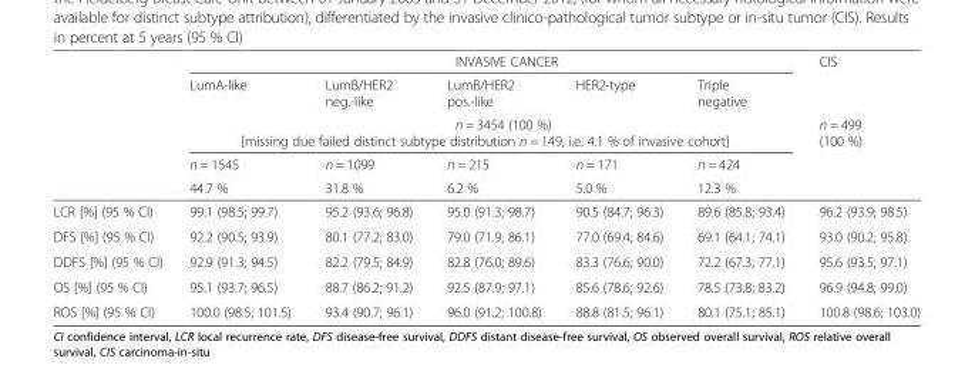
<table><thead><tr><td rowspan="5"></td><td colspan="5">INVASIVE CANCER</td><td rowspan="5">CIS n = 499 (100 %)</td></tr><tr><td>LumA-like</td><td>LumB/HER2 neg.-like</td><td>LumB/HER2 pos.-like</td><td>HER2-type</td><td>Triple negative</td></tr><tr><td colspan="5">n = 3454 (100 %) [missing due failed distinct subtype distribution n = 149, i.e. 4.1 % of invasive cohort]</td></tr><tr><td rowspan="2">n = 1545 44.7 %</td><td rowspan="2">n = 1099 31.8 %</td><td rowspan="2">n = 215 6.2 %</td><td rowspan="2">n = 171 5.0 %</td><td rowspan="2">n = 424 12.3 %</td></tr><tr></tr></thead><tbody><tr><td>LCR [%] (95 % CI)</td><td>99.1 (98.5; 99.7)</td><td>95.2 (93.6; 96.8)</td><td>95.0 (91.3; 98.7)</td><td>90.5 (84.7; 96.3)</td><td>89.6 (85.8; 93.4)</td><td>96.2 (93.9; 98.5)</td></tr><tr><td>DFS [%] (95 % CI)</td><td>92.2 (90.5; 93.9)</td><td>80.1 (77.2; 83.0)</td><td>79.0 (71.9; 86.1)</td><td>77.0 (69.4; 84.6)</td><td>69.1 (64.1; 74.1)</td><td>93.0 (90.2; 95.8)</td></tr><tr><td>DDFS [%] (95 % CI)</td><td>92.9 (91.3; 94.5)</td><td>82.2 (79.5; 84.9)</td><td>82.8 (76.0; 89.6)</td><td>83.3 (76.6; 90.0)</td><td>72.2 (67.3; 77.1)</td><td>95.6 (93.5; 97.1)</td></tr><tr><td>OS [%] (95 % CI)</td><td>95.1 (93.7; 96.5)</td><td>88.7 (86.2; 91.2)</td><td>92.5 (87.9; 97.1)</td><td>85.6 (78.6; 92.6)</td><td>78.5 (73.8; 83.2)</td><td>96.9 (94.8; 99.0)</td></tr><tr><td>ROS [%] (95 % CI)</td><td>100.0 (98.5; 101.5)</td><td>93.4 (90.7; 96.1)</td><td>96.0 (91.2; 100.8)</td><td>88.8 (81.5; 96.1)</td><td>80.1 (75.1; 85.1)</td><td>100.8 (98.6; 103.0)</td></tr></tbody></table>